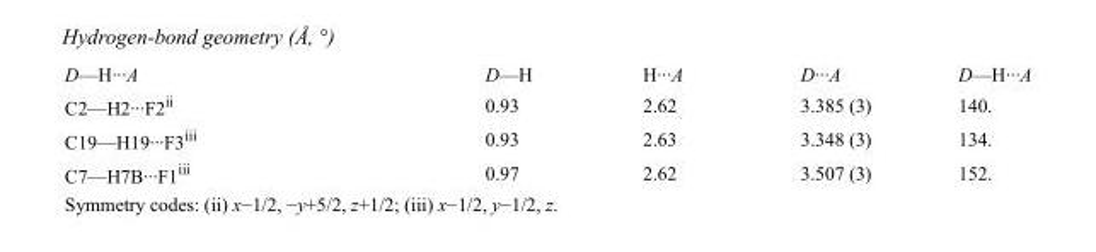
<table><tbody><tr><td>D—H···A</td><td>D—H</td><td>H···A</td><td>D···A</td><td>D—H···A</td></tr><tr><td>C2—H2···F2<sup>ii</sup></td><td>0.93</td><td>2.62</td><td>3.385 (3)</td><td>140.</td></tr><tr><td>C19—H19···F3<sup>iii</sup></td><td>0.93</td><td>2.63</td><td>3.348 (3)</td><td>134.</td></tr><tr><td>C7—H7B···F1<sup>iii</sup></td><td>0.97</td><td>2.62</td><td>3.507 (3)</td><td>152.</td></tr></tbody></table>